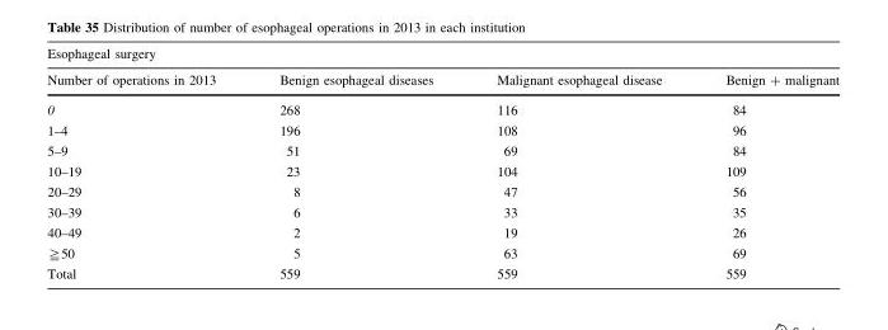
<table><thead><tr><td colspan="4">Esophageal surgery</td></tr><tr><td>Number of operations in 2013</td><td>Benign esophageal diseases</td><td>Malignant esophageal disease</td><td>Benign + malignant</td></tr></thead><tbody><tr><td>0</td><td>268</td><td>116</td><td>84</td></tr><tr><td>1–4</td><td>196</td><td>108</td><td>96</td></tr><tr><td>5–9</td><td>51</td><td>69</td><td>84</td></tr><tr><td>10–19</td><td>23</td><td>104</td><td>109</td></tr><tr><td>20–29</td><td>8</td><td>47</td><td>56</td></tr><tr><td>30–39</td><td>6</td><td>33</td><td>35</td></tr><tr><td>40–49</td><td>2</td><td>19</td><td>26</td></tr><tr><td>≧50</td><td>5</td><td>63</td><td>69</td></tr><tr><td>Total</td><td>559</td><td>559</td><td>559</td></tr></tbody></table>